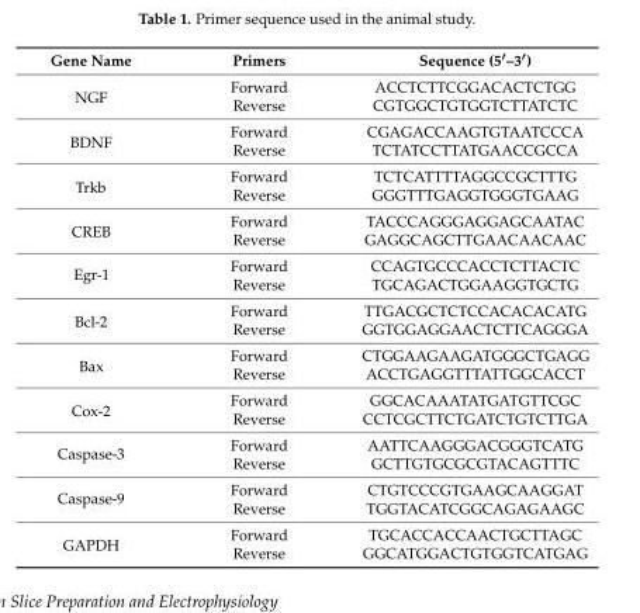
<table><thead><tr><td>Gene Name</td><td>Primers</td><td>Sequence (5′–3′)</td></tr></thead><tbody><tr><td rowspan="2">NGF</td><td>Forward</td><td>ACCTCTTCGGACACTCTGG</td></tr><tr><td>Reverse</td><td>CGTGGCTGTGGTCTTATCTC</td></tr><tr><td rowspan="2">BDNF</td><td>Forward</td><td>CGAGACCAAGTGTAATCCCA</td></tr><tr><td>Reverse</td><td>TCTATCCTTATGAACCGCCA</td></tr><tr><td rowspan="2">Trkb</td><td>Forward</td><td>TCTCATTTTAGGCCGCTTTG</td></tr><tr><td>Reverse</td><td>GGGTTTGAGGTGGGTGAAG</td></tr><tr><td rowspan="2">CREB</td><td>Forward</td><td>TACCCAGGGAGGAGCAATAC</td></tr><tr><td>Reverse</td><td>GAGGCAGCTTGAACAACAAC</td></tr><tr><td rowspan="2">Egr-1</td><td>Forward</td><td>CCAGTGCCCACCTCTTACTC</td></tr><tr><td>Reverse</td><td>TGCAGACTGGAAGGTGCTG</td></tr><tr><td rowspan="2">Bcl-2</td><td>Forward</td><td>TTGACGCTCTCCACACACATG</td></tr><tr><td>Reverse</td><td>GGTGGAGGAACTCTTCAGGGA</td></tr><tr><td rowspan="2">Bax</td><td>Forward</td><td>CTGGAAGAAGATGGGCTGAGG</td></tr><tr><td>Reverse</td><td>ACCTGAGGTTTATTGGCACCT</td></tr><tr><td rowspan="2">Cox-2</td><td>Forward</td><td>GGCACAAATATGATGTTCGC</td></tr><tr><td>Reverse</td><td>CCTCGCTTCTGATCTGTCTTGA</td></tr><tr><td rowspan="2">Caspase-3</td><td>Forward</td><td>AATTCAAGGGACGGGTCATG</td></tr><tr><td>Reverse</td><td>GCTTGTGCGCGTACAGTTTC</td></tr><tr><td rowspan="2">Caspase-9</td><td>Forward</td><td>CTGTCCCGTGAAGCAAGGAT</td></tr><tr><td>Reverse</td><td>TGGTACATCGGCAGAGAAGC</td></tr><tr><td rowspan="2">GAPDH</td><td>Forward</td><td>TGCACCACCAACTGCTTAGC</td></tr><tr><td>Reverse</td><td>GGCATGGACTGTGGTCATGAG</td></tr></tbody></table>